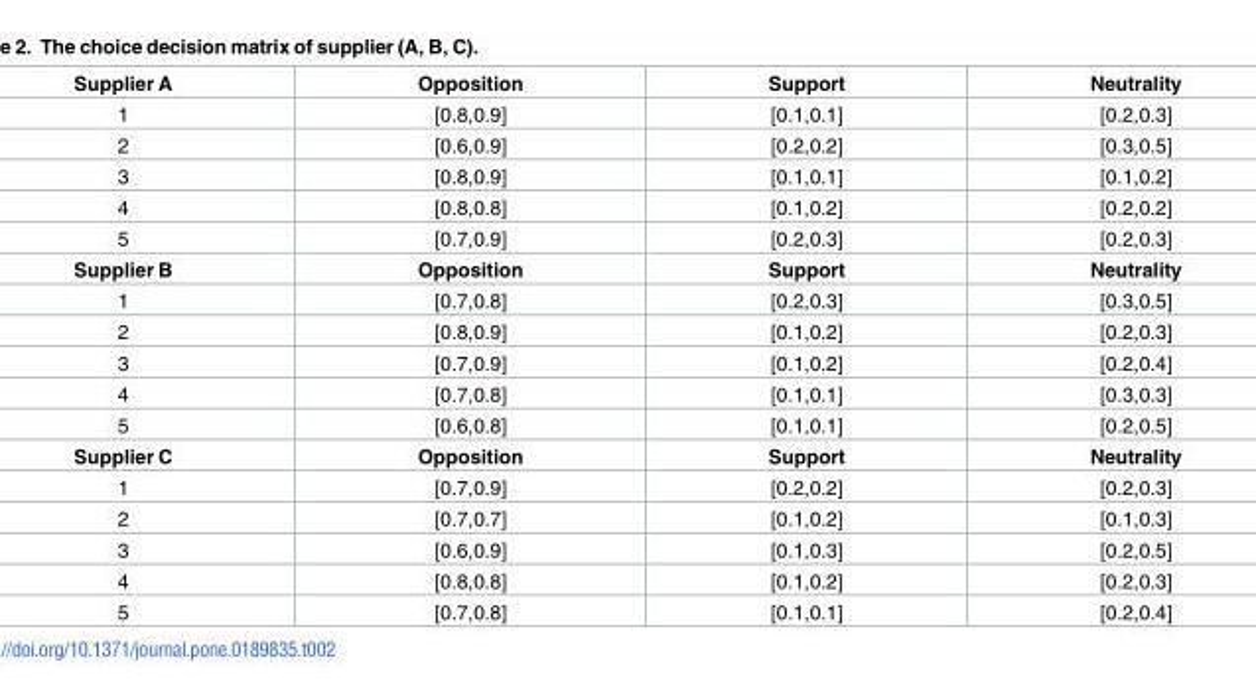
<table><tbody><tr><td>Supplier A</td><td>Opposition</td><td>Support</td><td>Neutrality</td></tr><tr><td>1</td><td>[0.8,0.9]</td><td>[0.1,0.1]</td><td>[0.2,0.3]</td></tr><tr><td>2</td><td>[0.6,0.9]</td><td>[0.2,0.2]</td><td>[0.3,0.5]</td></tr><tr><td>3</td><td>[0.8,0.9]</td><td>[0.1,0.1]</td><td>[0.1,0.2]</td></tr><tr><td>4</td><td>[0.8,0.8]</td><td>[0.1,0.2]</td><td>[0.2,0.2]</td></tr><tr><td>5</td><td>[0.7,0.9]</td><td>[0.2,0.3]</td><td>[0.2,0.3]</td></tr><tr><td>Supplier B</td><td>Opposition</td><td>Support</td><td>Neutrality</td></tr><tr><td>1</td><td>[0.7,0.8]</td><td>[0.2,0.3]</td><td>[0.3,0.5]</td></tr><tr><td>2</td><td>[0.8,0.9]</td><td>[0.1,0.2]</td><td>[0.2,0.3]</td></tr><tr><td>3</td><td>[0.7,0.9]</td><td>[0.1,0.2]</td><td>[0.2,0.4]</td></tr><tr><td>4</td><td>[0.7,0.8]</td><td>[0.1,0.1]</td><td>[0.3,0.3]</td></tr><tr><td>5</td><td>[0.6,0.8]</td><td>[0.1,0.1]</td><td>[0.2,0.5]</td></tr><tr><td>Supplier C</td><td>Opposition</td><td>Support</td><td>Neutrality</td></tr><tr><td>1</td><td>[0.7,0.9]</td><td>[0.2,0.2]</td><td>[0.2,0.3]</td></tr><tr><td>2</td><td>[0.7,0.7]</td><td>[0.1,0.2]</td><td>[0.1,0.3]</td></tr><tr><td>3</td><td>[0.6,0.9]</td><td>[0.1,0.3]</td><td>[0.2,0.5]</td></tr><tr><td>4</td><td>[0.8,0.8]</td><td>[0.1,0.2]</td><td>[0.2,0.3]</td></tr><tr><td>5</td><td>[0.7,0.8]</td><td>[0.1,0.1]</td><td>[0.2,0.4]</td></tr></tbody></table>